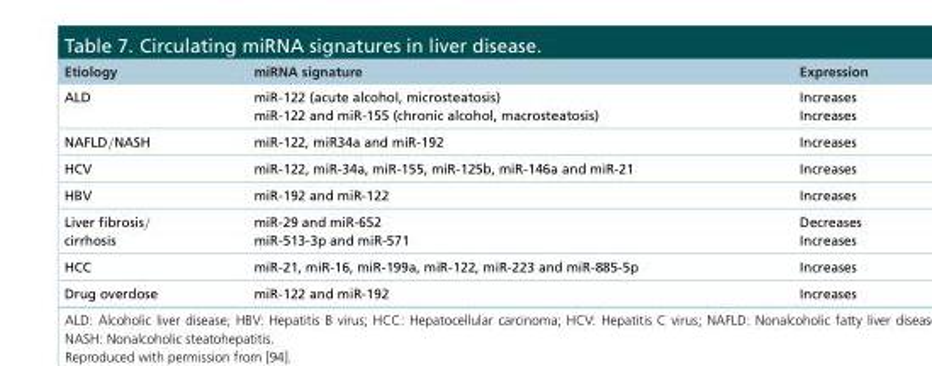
<table><thead><tr><td>Etiology</td><td>miRNA signature</td><td>Expression</td></tr></thead><tbody><tr><td>ALD</td><td>miR-122 (acute alcohol, microsteatosis) miR-122 and miR-155 (chronic alcohol, macrosteatosis)</td><td>Increases Increases</td></tr><tr><td>NAFLD/NASH</td><td>miR-122, miR34a and miR-192</td><td>Increases</td></tr><tr><td>HCV</td><td>miR-122, miR-34a, miR-155, miR-125b, miR-146a and miR-21</td><td>Increases</td></tr><tr><td>HBV</td><td>miR-192 and miR-122</td><td>Increases</td></tr><tr><td>Liver fibrosis/ cirrhosis</td><td>miR-29 and miR-652 miR-513-3p and miR-571</td><td>Decreases Increases</td></tr><tr><td>HCC</td><td>miR-21, miR-16, miR-199a, miR-122, miR-223 and miR-885-5p</td><td>Increases</td></tr><tr><td>Drug overdose</td><td>miR-122 and miR-192</td><td>Increases</td></tr></tbody></table>